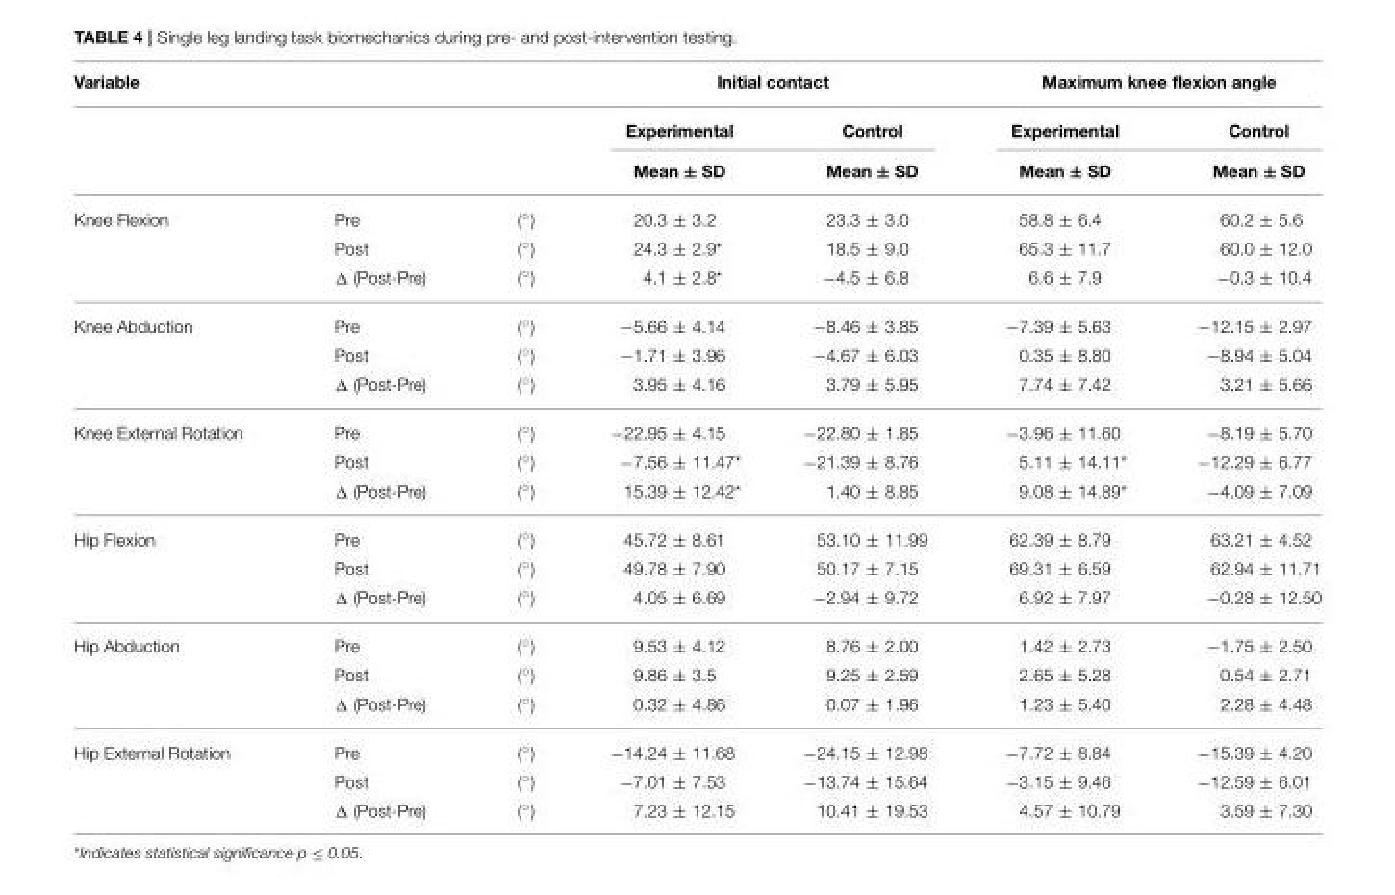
<table><thead><tr><td colspan="3">Variable</td><td colspan="2">Initial contact</td><td colspan="2">Maximum knee flexion angle</td></tr><tr><td></td><td></td><td></td><td>Experimental</td><td>Control</td><td>Experimental</td><td>Control</td></tr></thead><tbody><tr><td></td><td></td><td></td><td>Mean ± SD</td><td>Mean ± SD</td><td>Mean ± SD</td><td>Mean ± SD</td></tr><tr><td rowspan="3">Knee Flexion</td><td>Pre</td><td>(◦)</td><td>20.3 ± 3.2</td><td>23.3 ± 3.0</td><td>58.8 ± 6.4</td><td>60.2 ± 5.6</td></tr><tr><td>Post</td><td>(◦)</td><td>24.3 ± 2.9*</td><td>18.5 ± 9.0</td><td>65.3 ± 11.7</td><td>60.0 ± 12.0</td></tr><tr><td>Δ (Post-Pre)</td><td>(◦)</td><td>4.1 ± 2.8*</td><td>−4.5 ± 6.8</td><td>6.6 ± 7.9</td><td>−0.3 ± 10.4</td></tr><tr><td rowspan="3">Knee Abduction</td><td>Pre</td><td>(◦)</td><td>−5.66 ± 4.14</td><td>−8.46 ± 3.85</td><td>−7.39 ± 5.63</td><td>−12.15 ± 2.97</td></tr><tr><td>Post</td><td>(◦)</td><td>−1.71 ± 3.96</td><td>−4.67 ± 6.03</td><td>0.35 ± 8.80</td><td>−8.94 ± 5.04</td></tr><tr><td>Δ (Post-Pre)</td><td>(◦)</td><td>3.95 ± 4.16</td><td>3.79 ± 5.95</td><td>7.74 ± 7.42</td><td>3.21 ± 5.66</td></tr><tr><td rowspan="3">Knee External Rotation</td><td>Pre</td><td>(◦)</td><td>−22.95 ± 4.15</td><td>−22.80 ± 1.85</td><td>−3.96 ± 11.60</td><td>−8.19 ± 5.70</td></tr><tr><td>Post</td><td>(◦)</td><td>−7.56 ± 11.47*</td><td>−21.39 ± 8.76</td><td>5.11 ± 14.11*</td><td>−12.29 ± 6.77</td></tr><tr><td>Δ (Post-Pre)</td><td>(◦)</td><td>15.39 ± 12.42*</td><td>1.40 ± 8.85</td><td>9.08 ± 14.89*</td><td>−4.09 ± 7.09</td></tr><tr><td rowspan="3">Hip Flexion</td><td>Pre</td><td>(◦)</td><td>45.72 ± 8.61</td><td>53.10 ± 11.99</td><td>62.39 ± 8.79</td><td>63.21 ± 4.52</td></tr><tr><td>Post</td><td>(◦)</td><td>49.78 ± 7.90</td><td>50.17 ± 7.15</td><td>69.31 ± 6.59</td><td>62.94 ± 11.71</td></tr><tr><td>Δ (Post-Pre)</td><td>(◦)</td><td>4.05 ± 6.69</td><td>−2.94 ± 9.72</td><td>6.92 ± 7.97</td><td>−0.28 ± 12.50</td></tr><tr><td rowspan="3">Hip Abduction</td><td>Pre</td><td>(◦)</td><td>9.53 ± 4.12</td><td>8.76 ± 2.00</td><td>1.42 ± 2.73</td><td>−1.75 ± 2.50</td></tr><tr><td>Post</td><td>(◦)</td><td>9.86 ± 3.5</td><td>9.25 ± 2.59</td><td>2.65 ± 5.28</td><td>0.54 ± 2.71</td></tr><tr><td>Δ (Post-Pre)</td><td>(◦)</td><td>0.32 ± 4.86</td><td>0.07 ± 1.96</td><td>1.23 ± 5.40</td><td>2.28 ± 4.48</td></tr><tr><td rowspan="3">Hip External Rotation</td><td>Pre</td><td>(◦)</td><td>−14.24 ± 11.68</td><td>−24.15 ± 12.98</td><td>−7.72 ± 8.84</td><td>−15.39 ± 4.20</td></tr><tr><td>Post</td><td>(◦)</td><td>−7.01 ± 7.53</td><td>−13.74 ± 15.64</td><td>−3.15 ± 9.46</td><td>−12.59 ± 6.01</td></tr><tr><td>Δ (Post-Pre)</td><td>(◦)</td><td>7.23 ± 12.15</td><td>10.41 ± 19.53</td><td>4.57 ± 10.79</td><td>3.59 ± 7.30</td></tr></tbody></table>